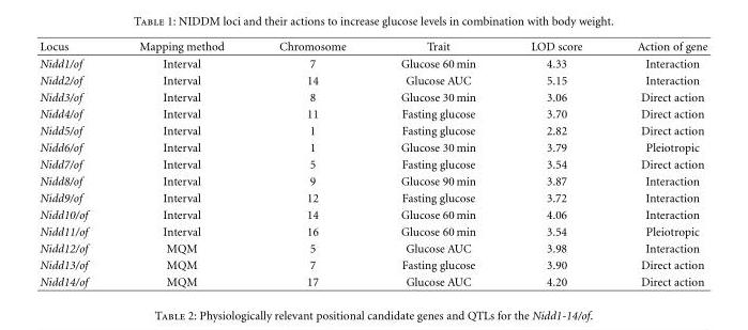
<table><thead><tr><td>Locus</td><td>Mapping method</td><td>Chromosome</td><td>Trait</td><td>LOD score</td><td>Action of gene</td></tr></thead><tbody><tr><td>Nidd1/of</td><td>Interval</td><td>7</td><td>Glucose 60 min</td><td>4.33</td><td>Interaction</td></tr><tr><td>Nidd2/of</td><td>Interval</td><td>14</td><td>Glucose AUC</td><td>5.15</td><td>Interaction</td></tr><tr><td>Nidd3/of</td><td>Interval</td><td>8</td><td>Glucose 30 min</td><td>3.06</td><td>Direct action</td></tr><tr><td>Nidd4/of</td><td>Interval</td><td>11</td><td>Fasting glucose</td><td>3.70</td><td>Direct action</td></tr><tr><td>Nidd5/of</td><td>Interval</td><td>1</td><td>Fasting glucose</td><td>2.82</td><td>Direct action</td></tr><tr><td>Nidd6/of</td><td>Interval</td><td>1</td><td>Glucose 30 min</td><td>3.79</td><td>Pleiotropic</td></tr><tr><td>Nidd7/of</td><td>Interval</td><td>5</td><td>Fasting glucose</td><td>3.54</td><td>Direct action</td></tr><tr><td>Nidd8/of</td><td>Interval</td><td>9</td><td>Glucose 90 min</td><td>3.87</td><td>Interaction</td></tr><tr><td>Nidd9/of</td><td>Interval</td><td>12</td><td>Fasting glucose</td><td>3.72</td><td>Interaction</td></tr><tr><td>Nidd10/of</td><td>Interval</td><td>14</td><td>Glucose 60 min</td><td>4.06</td><td>Interaction</td></tr><tr><td>Nidd11/of</td><td>Interval</td><td>16</td><td>Glucose 60 min</td><td>3.54</td><td>Pleiotropic</td></tr><tr><td>Nidd12/of</td><td>MQM</td><td>5</td><td>Glucose AUC</td><td>3.98</td><td>Interaction</td></tr><tr><td>Nidd13/of</td><td>MQM</td><td>7</td><td>Fasting glucose</td><td>3.90</td><td>Direct action</td></tr><tr><td>Nidd14/of</td><td>MQM</td><td>17</td><td>Glucose AUC</td><td>4.20</td><td>Direct action</td></tr></tbody></table>